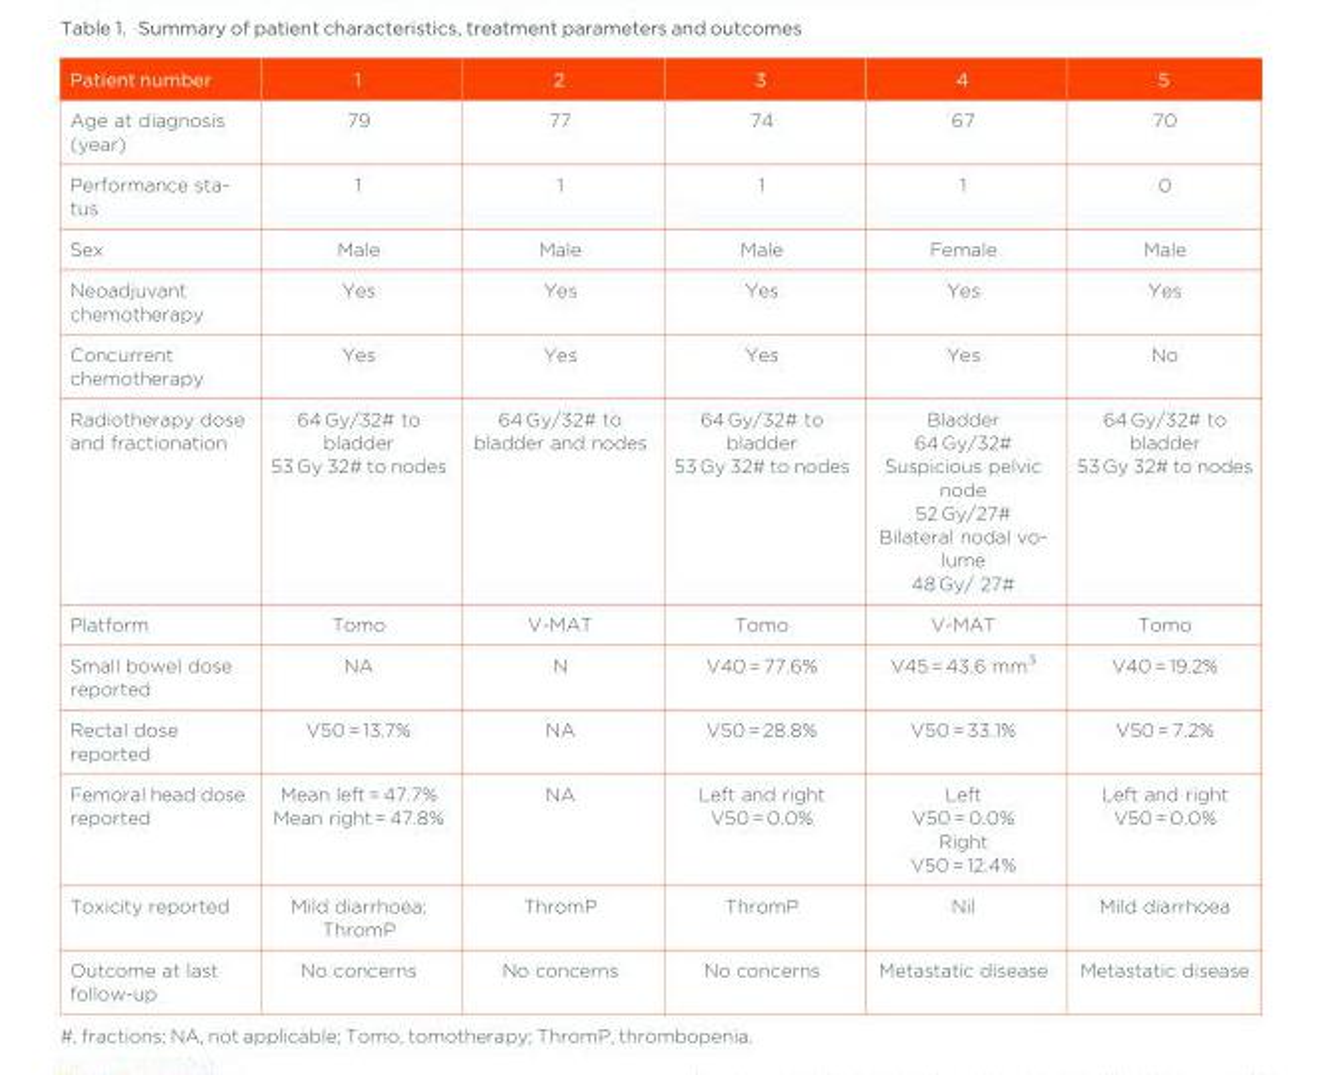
<table><thead><tr><td>Patient number</td><td>1</td><td>2</td><td>3</td><td>4</td><td>5</td></tr></thead><tbody><tr><td>Age at diagnosis (year)</td><td>79</td><td>77</td><td>74</td><td>67</td><td>70</td></tr><tr><td>Performance sta- tus</td><td>1</td><td>1</td><td>1</td><td>1</td><td>0</td></tr><tr><td>Sex</td><td>Male</td><td>Male</td><td>Male</td><td>Female</td><td>Male</td></tr><tr><td>Neoadjuvant chemotherapy</td><td>Yes</td><td>Yes</td><td>Yes</td><td>Yes</td><td>Yes</td></tr><tr><td>Concurrent chemotherapy</td><td>Yes</td><td>Yes</td><td>Yes</td><td>Yes</td><td>No</td></tr><tr><td>Radiotherapy dose and fractionation</td><td>64 Gy/32# to bladder 53 Gy 32# to nodes</td><td>64 Gy/32# to bladder and nodes</td><td>64 Gy/32# to bladder 53 Gy 32# to nodes</td><td>Bladder 64 Gy/32# Suspicious pelvic node 52 Gy/27# Bilateral nodal vo- lume 48 Gy/ 27#</td><td>64 Gy/32# to bladder 53 Gy 32# to nodes</td></tr><tr><td>Platform</td><td>Tomo</td><td>V-MAT</td><td>Tomo</td><td>V-MAT</td><td>Tomo</td></tr><tr><td>Small bowel dose reported</td><td>NA</td><td>N</td><td>V40 = 77.6%</td><td>V45 = 43.6 mm<sup>3</sup></td><td>V40 = 19.2%</td></tr><tr><td>Rectal dose reported</td><td>V50 = 13.7%</td><td>NA</td><td>V50 = 28.8%</td><td>V50 = 33.1%</td><td>V50 = 7.2%</td></tr><tr><td>Femoral head dose reported</td><td>Mean left = 47.7% Mean right = 47.8%</td><td>NA</td><td>Left and right V50 = 0.0%</td><td>Left V50 = 0.0% Right V50 = 12.4%</td><td>Left and right V50 = 0.0%</td></tr><tr><td>Toxicity reported</td><td>Mild diarrhoea; ThromP</td><td>ThromP</td><td>ThromP</td><td>Nil</td><td>Mild diarrhoea</td></tr><tr><td>Outcome at last follow-up</td><td>No concerns</td><td>No concerns</td><td>No concerns</td><td>Metastatic disease</td><td>Metastatic disease</td></tr></tbody></table>